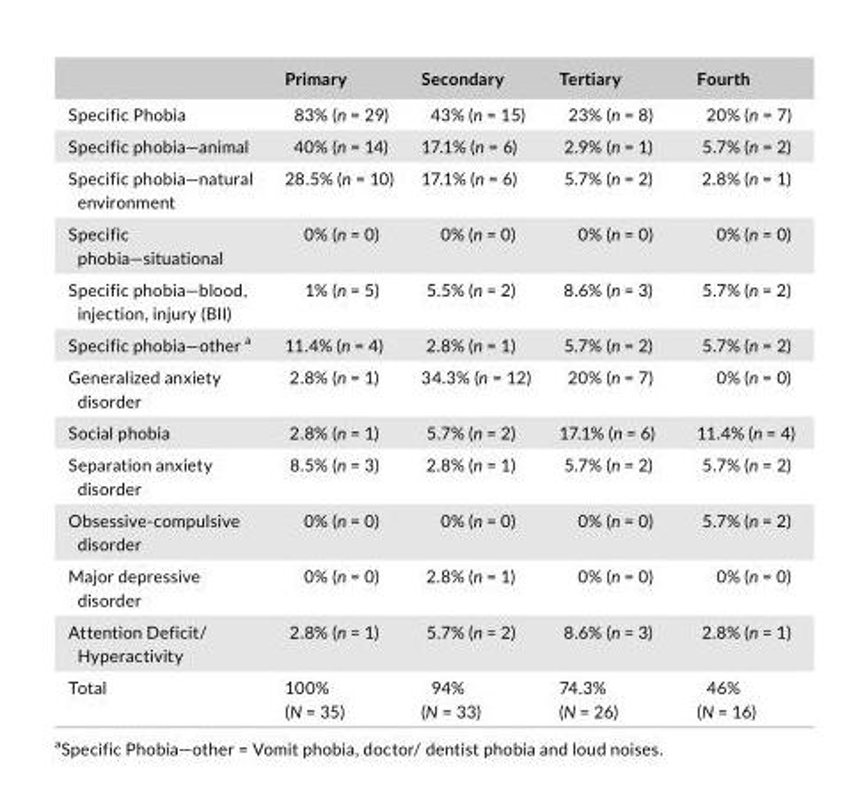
<table><thead><tr><td></td><td>Primary</td><td>Secondary</td><td>Tertiary</td><td>Fourth</td></tr></thead><tbody><tr><td>Specific Phobia</td><td>83% (n = 29)</td><td>43% (n = 15)</td><td>23% (n = 8)</td><td>20% (n = 7)</td></tr><tr><td>Specific phobia—animal</td><td>40% (n = 14)</td><td>17.1% (n = 6)</td><td>2.9% (n = 1)</td><td>5.7% (n = 2)</td></tr><tr><td>Specific phobia—natural environment</td><td>28.5% (n = 10)</td><td>17.1% (n = 6)</td><td>5.7% (n = 2)</td><td>2.8% (n = 1)</td></tr><tr><td>Specific phobia—situational</td><td>0% (n = 0)</td><td>0% (n = 0)</td><td>0% (n = 0)</td><td>0% (n = 0)</td></tr><tr><td>Specific phobia—blood, injection, injury (BII)</td><td>1% (n = 5)</td><td>5.5% (n = 2)</td><td>8.6% (n = 3)</td><td>5.7% (n = 2)</td></tr><tr><td>Specific phobia—other a</td><td>11.4% (n = 4)</td><td>2.8% (n = 1)</td><td>5.7% (n = 2)</td><td>5.7% (n = 2)</td></tr><tr><td>Generalized anxiety disorder</td><td>2.8% (n = 1)</td><td>34.3% (n = 12)</td><td>20% (n = 7)</td><td>0% (n = 0)</td></tr><tr><td>Social phobia</td><td>2.8% (n = 1)</td><td>5.7% (n = 2)</td><td>17.1% (n = 6)</td><td>11.4% (n = 4)</td></tr><tr><td>Separation anxiety disorder</td><td>8.5% (n = 3)</td><td>2.8% (n = 1)</td><td>5.7% (n = 2)</td><td>5.7% (n = 2)</td></tr><tr><td>Obsessive- compulsive disorder</td><td>0% (n = 0)</td><td>0% (n = 0)</td><td>0% (n = 0)</td><td>5.7% (n = 2)</td></tr><tr><td>Major depressive disorder</td><td>0% (n = 0)</td><td>2.8% (n = 1)</td><td>0% (n = 0)</td><td>0% (n = 0)</td></tr><tr><td>Attention Deficit/ Hyperactivity</td><td>2.8% (n = 1)</td><td>5.7% (n = 2)</td><td>8.6% (n = 3)</td><td>2.8% (n = 1)</td></tr><tr><td>Total</td><td>100% (N = 35)</td><td>94% (N = 33)</td><td>74.3% (N = 26)</td><td>46% (N = 16)</td></tr></tbody></table>